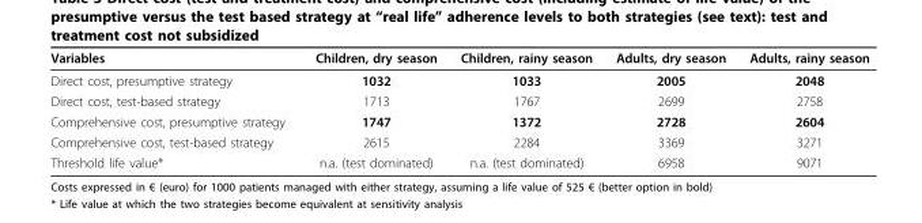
<table><thead><tr><td>Variables</td><td>Children, dry season</td><td>Children, rainy season</td><td>Adults, dry season</td><td>Adults, rainy season</td></tr></thead><tbody><tr><td>Direct cost, presumptive strategy</td><td>1032</td><td>1033</td><td>2005</td><td>2048</td></tr><tr><td>Direct cost, test-based strategy</td><td>1713</td><td>1767</td><td>2699</td><td>2758</td></tr><tr><td>Comprehensive cost, presumptive strategy</td><td>1747</td><td>1372</td><td>2728</td><td>2604</td></tr><tr><td>Comprehensive cost, test-based strategy</td><td>2615</td><td>2284</td><td>3369</td><td>3271</td></tr><tr><td>Threshold life value*</td><td>n.a. (test dominated)</td><td>n.a. (test dominated)</td><td>6958</td><td>9071</td></tr></tbody></table>